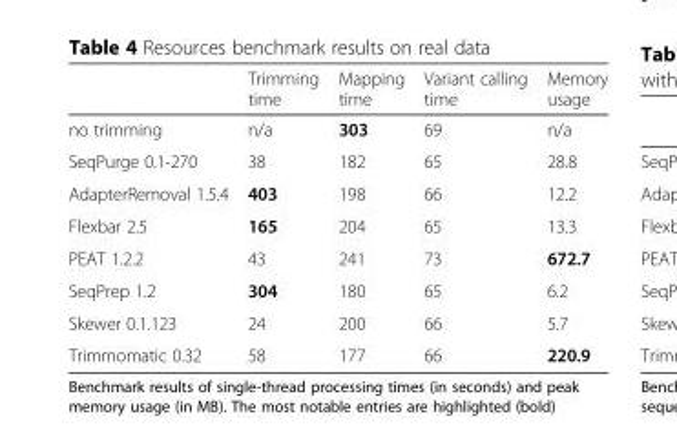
<table><thead><tr><td></td><td>Trimming time</td><td>Mapping time</td><td>Variant calling time</td><td>Memory usage</td></tr></thead><tbody><tr><td>no trimming</td><td>n/a</td><td>303</td><td>69</td><td>n/a</td></tr><tr><td>SeqPurge 0.1-270</td><td>38</td><td>182</td><td>65</td><td>28.8</td></tr><tr><td>AdapterRemoval 1.5.4</td><td>403</td><td>198</td><td>66</td><td>12.2</td></tr><tr><td>Flexbar 2.5</td><td>165</td><td>204</td><td>65</td><td>13.3</td></tr><tr><td>PEAT 1.2.2</td><td>43</td><td>241</td><td>73</td><td>672.7</td></tr><tr><td>SeqPrep 1.2</td><td>304</td><td>180</td><td>65</td><td>6.2</td></tr><tr><td>Skewer 0.1.123</td><td>24</td><td>200</td><td>66</td><td>5.7</td></tr><tr><td>Trimmomatic 0.32</td><td>58</td><td>177</td><td>66</td><td>220.9</td></tr></tbody></table>